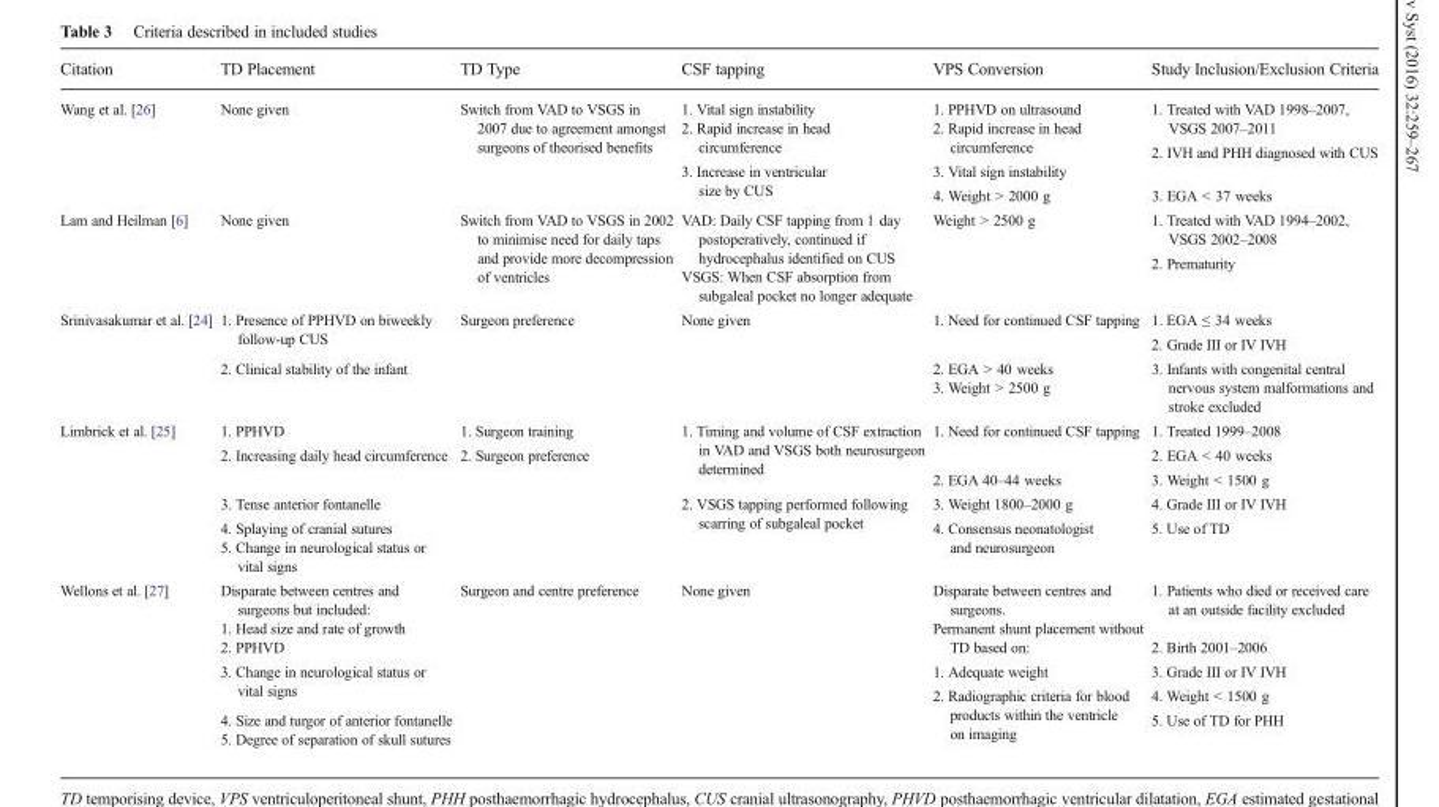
<table><thead><tr><td>Citation</td><td>TD Placement</td><td>TD Type</td><td>CSF tapping</td><td>VPS Conversion</td><td>Study Inclusion/Exclusion Criteria</td></tr></thead><tbody><tr><td rowspan="5">Wang et al. [26]</td><td rowspan="5">None given</td><td rowspan="5">Switch from VAD to VSGS in 2007 due to agreement amongst surgeons of theorised benefits</td><td>1. Vital sign instability</td><td>1. PPHVD on ultrasound</td><td rowspan="2">1. Treated with VAD 1998–2007, VSGS 2007–2011</td></tr><tr><td rowspan="2">2. Rapid increase in head circumference</td><td rowspan="2">2. Rapid increase in head circumference</td></tr><tr><td rowspan="2">2. IVH and PHH diagnosed with CUS</td></tr><tr><td rowspan="2">3. Increase in ventricular size by CUS</td><td>3. Vital sign instability</td></tr><tr><td>4. Weight &gt; 2000 g</td><td>3. EGA &lt; 37 weeks</td></tr><tr><td rowspan="3">Lam and Heilman [6]</td><td rowspan="3">None given</td><td rowspan="3">Switch from VAD to VSGS in 2002 to minimise need for daily taps and provide more decompression of ventricles</td><td rowspan="2">VAD: Daily CSF tapping from 1 day postoperatively, continued if hydrocephalus identified on CUS</td><td rowspan="3">Weight &gt; 2500 g</td><td>1. Treated with VAD 1994–2002, VSGS 2002–2008</td></tr><tr><td rowspan="2">2. Prematurity</td></tr><tr><td>VSGS: When CSF absorption from subgaleal pocket no longer adequate</td></tr><tr><td rowspan="4">Srinivasakumar et al. [24]</td><td rowspan="2">1. Presence of PPHVD on biweekly follow-up CUS</td><td rowspan="4">Surgeon preference</td><td rowspan="4">None given</td><td rowspan="2">1. Need for continued CSF tapping</td><td>1. EGA ≤ 34 weeks</td></tr><tr><td>2. Grade III or IV IVH</td></tr><tr><td rowspan="2">2. Clinical stability of the infant</td><td>2. EGA &gt; 40 weeks</td><td rowspan="2">3. Infants with congenital central nervous system malformations and stroke excluded</td></tr><tr><td>3. Weight &gt; 2500 g</td></tr><tr><td rowspan="6">Limbrick et al. [25]</td><td>1. PPHVD</td><td>1. Surgeon training</td><td rowspan="3">1. Timing and volume of CSF extraction in VAD and VSGS both neurosurgeon determined</td><td rowspan="2">1. Need for continued CSF tapping</td><td>1. Treated 1999–2008</td></tr><tr><td rowspan="2">2. Increasing daily head circumference</td><td rowspan="5">2. Surgeon preference</td><td>2. EGA &lt; 40 weeks</td></tr><tr><td>2. EGA 40–44 weeks</td><td>3. Weight &lt; 1500 g</td></tr><tr><td>3. Tense anterior fontanelle</td><td rowspan="3">2. VSGS tapping performed following scarring of subgaleal pocket</td><td>3. Weight 1800–2000 g</td><td>4. Grade III or IV IVH</td></tr><tr><td>4. Splaying of cranial sutures</td><td rowspan="2">4. Consensus neonatologist and neurosurgeon</td><td rowspan="2">5. Use of TD</td></tr><tr><td>5. Change in neurological status or vital signs</td></tr><tr><td rowspan="7">Wellons et al. [27]</td><td>Disparate between centres and surgeons but included:</td><td rowspan="7">Surgeon and centre preference</td><td rowspan="7">None given</td><td>Disparate between centres and surgeons.</td><td rowspan="2">1. Patients who died or received care at an outside facility excluded</td></tr><tr><td>1. Head size and rate of growth</td><td rowspan="2">Permanent shunt placement without TD based on:</td></tr><tr><td>2. PPHVD</td><td>2. Birth 2001–2006</td></tr><tr><td rowspan="2">3. Change in neurological status or vital signs</td><td>1. Adequate weight</td><td>3. Grade III or IV IVH</td></tr><tr><td rowspan="3">2. Radiographic criteria for blood products within the ventricle on imaging</td><td>4. Weight &lt; 1500 g</td></tr><tr><td>4. Size and turgor of anterior fontanelle</td><td rowspan="2">5. Use of TD for PHH</td></tr><tr><td>5. Degree of separation of skull sutures</td></tr></tbody></table>